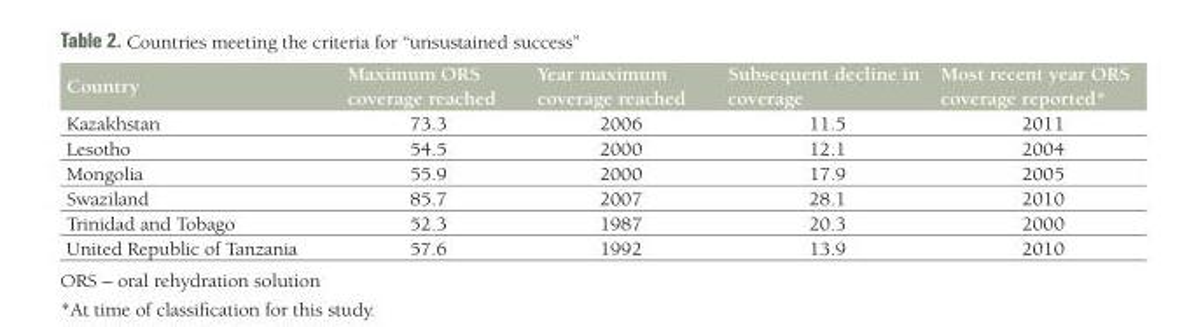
<table><thead><tr><td>Country</td><td>Maximum ORS coverage reached</td><td>Year maximum coverage reached</td><td>Subsequent decline in coverage</td><td>Most recent year ORS coverage reported*</td></tr></thead><tbody><tr><td>Kazakhstan</td><td>73.3</td><td>2006</td><td>11.5</td><td>2011</td></tr><tr><td>Lesotho</td><td>54.5</td><td>2000</td><td>12.1</td><td>2004</td></tr><tr><td>Mongolia</td><td>55.9</td><td>2000</td><td>17.9</td><td>2005</td></tr><tr><td>Swaziland</td><td>85.7</td><td>2007</td><td>28.1</td><td>2010</td></tr><tr><td>Trinidad and Tobago</td><td>52.3</td><td>1987</td><td>20.3</td><td>2000</td></tr><tr><td>United Republic of Tanzania</td><td>57.6</td><td>1992</td><td>13.9</td><td>2010</td></tr></tbody></table>